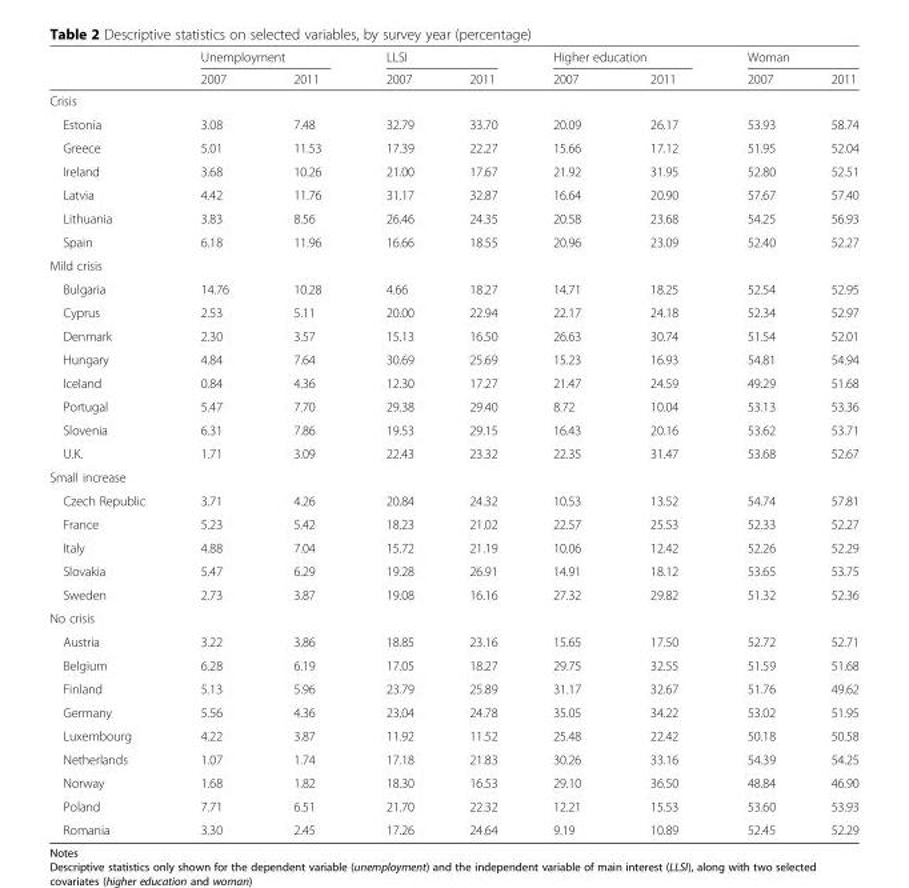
<table><thead><tr><td rowspan="2"></td><td colspan="2">Unemployment</td><td colspan="2">LLSI</td><td colspan="2">Higher education</td><td colspan="2">Woman</td></tr><tr><td>2007</td><td>2011</td><td>2007</td><td>2011</td><td>2007</td><td>2011</td><td>2007</td><td>2011</td></tr></thead><tbody><tr><td colspan="9">Crisis</td></tr><tr><td>Estonia</td><td>3.08</td><td>7.48</td><td>32.79</td><td>33.70</td><td>20.09</td><td>26.17</td><td>53.93</td><td>58.74</td></tr><tr><td>Greece</td><td>5.01</td><td>11.53</td><td>17.39</td><td>22.27</td><td>15.66</td><td>17.12</td><td>51.95</td><td>52.04</td></tr><tr><td>Ireland</td><td>3.68</td><td>10.26</td><td>21.00</td><td>17.67</td><td>21.92</td><td>31.95</td><td>52.80</td><td>52.51</td></tr><tr><td>Latvia</td><td>4.42</td><td>11.76</td><td>31.17</td><td>32.87</td><td>16.64</td><td>20.90</td><td>57.67</td><td>57.40</td></tr><tr><td>Lithuania</td><td>3.83</td><td>8.56</td><td>26.46</td><td>24.35</td><td>20.58</td><td>23.68</td><td>54.25</td><td>56.93</td></tr><tr><td>Spain</td><td>6.18</td><td>11.96</td><td>16.66</td><td>18.55</td><td>20.96</td><td>23.09</td><td>52.40</td><td>52.27</td></tr><tr><td colspan="9">Mild crisis</td></tr><tr><td>Bulgaria</td><td>14.76</td><td>10.28</td><td>4.66</td><td>18.27</td><td>14.71</td><td>18.25</td><td>52.54</td><td>52.95</td></tr><tr><td>Cyprus</td><td>2.53</td><td>5.11</td><td>20.00</td><td>22.94</td><td>22.17</td><td>24.18</td><td>52.34</td><td>52.97</td></tr><tr><td>Denmark</td><td>2.30</td><td>3.57</td><td>15.13</td><td>16.50</td><td>26.63</td><td>30.74</td><td>51.54</td><td>52.01</td></tr><tr><td>Hungary</td><td>4.84</td><td>7.64</td><td>30.69</td><td>25.69</td><td>15.23</td><td>16.93</td><td>54.81</td><td>54.94</td></tr><tr><td>Iceland</td><td>0.84</td><td>4.36</td><td>12.30</td><td>17.27</td><td>21.47</td><td>24.59</td><td>49.29</td><td>51.68</td></tr><tr><td>Portugal</td><td>5.47</td><td>7.70</td><td>29.38</td><td>29.40</td><td>8.72</td><td>10.04</td><td>53.13</td><td>53.36</td></tr><tr><td>Slovenia</td><td>6.31</td><td>7.86</td><td>19.53</td><td>29.15</td><td>16.43</td><td>20.16</td><td>53.62</td><td>53.71</td></tr><tr><td>U.K.</td><td>1.71</td><td>3.09</td><td>22.43</td><td>23.32</td><td>22.35</td><td>31.47</td><td>53.68</td><td>52.67</td></tr><tr><td colspan="9">Small increase</td></tr><tr><td>Czech Republic</td><td>3.71</td><td>4.26</td><td>20.84</td><td>24.32</td><td>10.53</td><td>13.52</td><td>54.74</td><td>57.81</td></tr><tr><td>France</td><td>5.23</td><td>5.42</td><td>18.23</td><td>21.02</td><td>22.57</td><td>25.53</td><td>52.33</td><td>52.27</td></tr><tr><td>Italy</td><td>4.88</td><td>7.04</td><td>15.72</td><td>21.19</td><td>10.06</td><td>12.42</td><td>52.26</td><td>52.29</td></tr><tr><td>Slovakia</td><td>5.47</td><td>6.29</td><td>19.28</td><td>26.91</td><td>14.91</td><td>18.12</td><td>53.65</td><td>53.75</td></tr><tr><td>Sweden</td><td>2.73</td><td>3.87</td><td>19.08</td><td>16.16</td><td>27.32</td><td>29.82</td><td>51.32</td><td>52.36</td></tr><tr><td colspan="9">No crisis</td></tr><tr><td>Austria</td><td>3.22</td><td>3.86</td><td>18.85</td><td>23.16</td><td>15.65</td><td>17.50</td><td>52.72</td><td>52.71</td></tr><tr><td>Belgium</td><td>6.28</td><td>6.19</td><td>17.05</td><td>18.27</td><td>29.75</td><td>32.55</td><td>51.59</td><td>51.68</td></tr><tr><td>Finland</td><td>5.13</td><td>5.96</td><td>23.79</td><td>25.89</td><td>31.17</td><td>32.67</td><td>51.76</td><td>49.62</td></tr><tr><td>Germany</td><td>5.56</td><td>4.36</td><td>23.04</td><td>24.78</td><td>35.05</td><td>34.22</td><td>53.02</td><td>51.95</td></tr><tr><td>Luxembourg</td><td>4.22</td><td>3.87</td><td>11.92</td><td>11.52</td><td>25.48</td><td>22.42</td><td>50.18</td><td>50.58</td></tr><tr><td>Netherlands</td><td>1.07</td><td>1.74</td><td>17.18</td><td>21.83</td><td>30.26</td><td>33.16</td><td>54.39</td><td>54.25</td></tr><tr><td>Norway</td><td>1.68</td><td>1.82</td><td>18.30</td><td>16.53</td><td>29.10</td><td>36.50</td><td>48.84</td><td>46.90</td></tr><tr><td>Poland</td><td>7.71</td><td>6.51</td><td>21.70</td><td>22.32</td><td>12.21</td><td>15.53</td><td>53.60</td><td>53.93</td></tr><tr><td>Romania</td><td>3.30</td><td>2.45</td><td>17.26</td><td>24.64</td><td>9.19</td><td>10.89</td><td>52.45</td><td>52.29</td></tr></tbody></table>